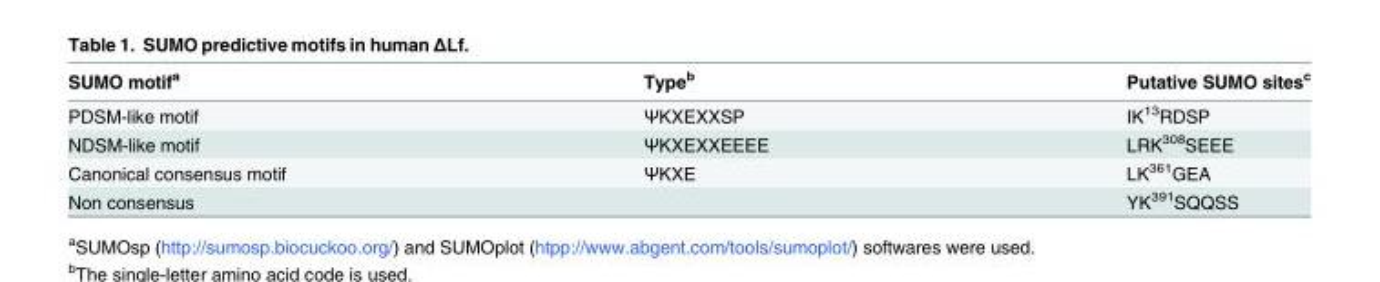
<table><thead><tr><td>SUMO motif<sup>a</sup></td><td>Type<sup>b</sup></td><td>Putative SUMO sites<sup>c</sup></td></tr></thead><tbody><tr><td>PDSM-like motif</td><td>ΨKXEXXSP</td><td>IK<sup>13</sup>RDSP</td></tr><tr><td>NDSM-like motif</td><td>ΨKXEXXEEEE</td><td>LRK<sup>308</sup>SEEE</td></tr><tr><td>Canonical consensus motif</td><td>ΨKXE</td><td>LK<sup>361</sup>GEA</td></tr><tr><td>Non consensus</td><td></td><td>YK<sup>391</sup>SQQSS</td></tr></tbody></table>